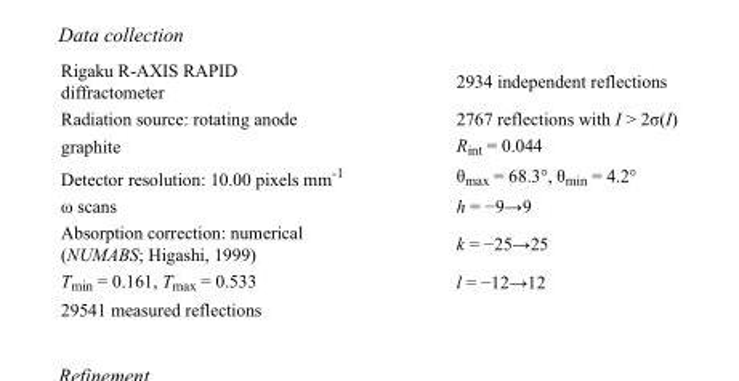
<table><tbody><tr><td>Rigaku R-AXIS RAPID diffractometer</td><td>2934 independent reflections</td></tr><tr><td>Radiation source: rotating anode</td><td>2767 reflections with I &gt; 2σ(I)</td></tr><tr><td>graphite</td><td>R<sub>int</sub> = 0.044</td></tr><tr><td>Detector resolution: 10.00 pixels mm<sup>-1</sup></td><td>θ<sub>max</sub> = 68.3°, θ<sub>min</sub> = 4.2°</td></tr><tr><td>ω scans</td><td>h = −9→9</td></tr><tr><td>Absorption correction: numerical (NUMABS; Higashi, 1999)</td><td>k = −25→25</td></tr><tr><td>T<sub>min</sub> = 0.161, T<sub>max</sub> = 0.533</td><td>l = −12→12</td></tr><tr><td>29541 measured reflections</td><td></td></tr></tbody></table>